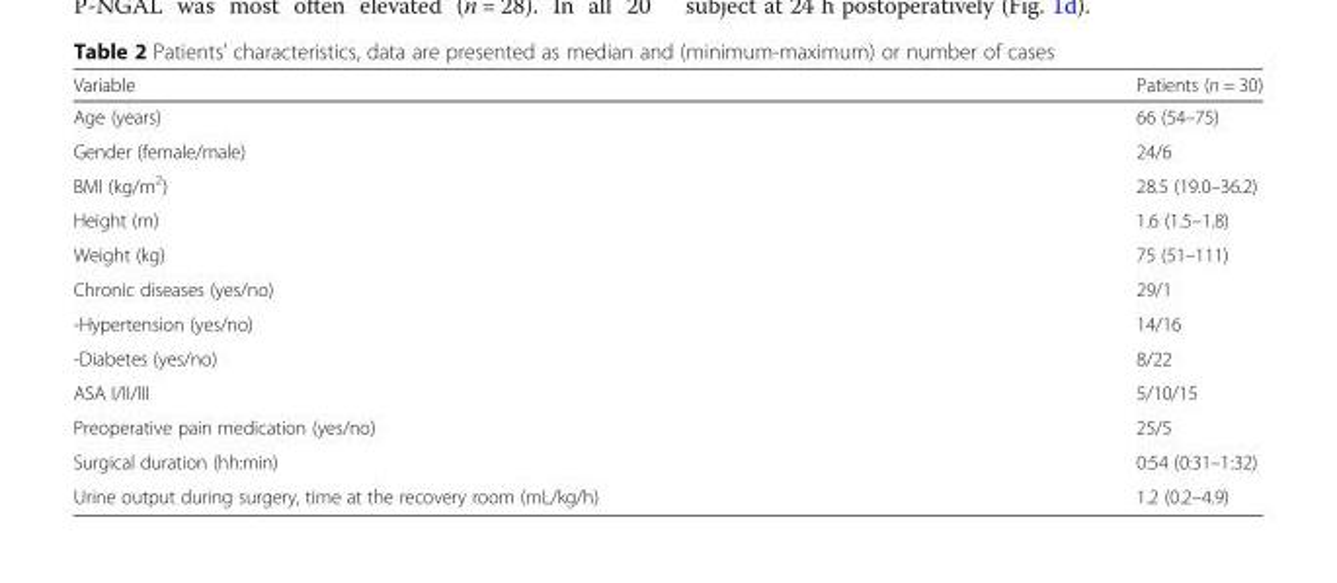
<table><thead><tr><td>Variable</td><td>Patients (n = 30)</td></tr></thead><tbody><tr><td>Age (years)</td><td>66 (54–75)</td></tr><tr><td>Gender (female/male)</td><td>24/6</td></tr><tr><td>BMI (kg/m<sup>2</sup>)</td><td>28.5 (19.0–36.2)</td></tr><tr><td>Height (m)</td><td>1.6 (1.5–1.8)</td></tr><tr><td>Weight (kg)</td><td>75 (51–111)</td></tr><tr><td>Chronic diseases (yes/no)</td><td>29/1</td></tr><tr><td>-Hypertension (yes/no)</td><td>14/16</td></tr><tr><td>-Diabetes (yes/no)</td><td>8/22</td></tr><tr><td>ASA I/II/III</td><td>5/10/15</td></tr><tr><td>Preoperative pain medication (yes/no)</td><td>25/5</td></tr><tr><td>Surgical duration (hh:min)</td><td>0:54 (0:31–1:32)</td></tr><tr><td>Urine output during surgery, time at the recovery room (mL/kg/h)</td><td>1.2 (0.2–4.9)</td></tr></tbody></table>